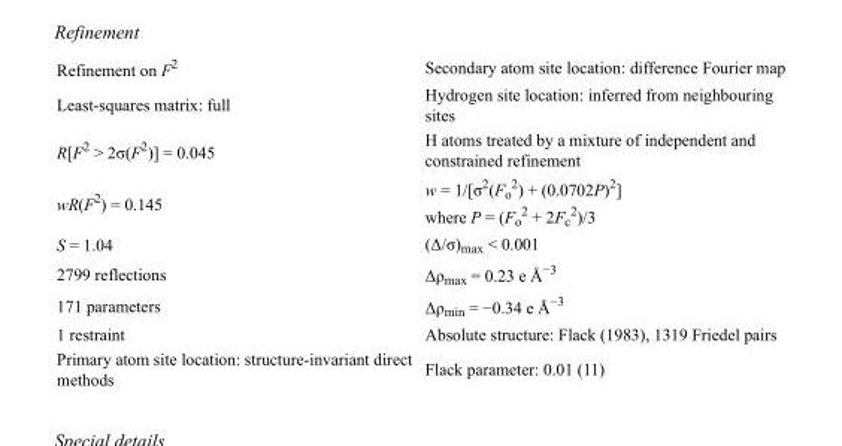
<table><tbody><tr><td>Refinement on F<sup>2</sup></td><td>Secondary atom site location: difference Fourier map</td></tr><tr><td>Least-squares matrix: full</td><td>Hydrogen site location: inferred from neighbouring sites</td></tr><tr><td>R[F<sup>2</sup> &gt; 2σ(F<sup>2</sup>)] = 0.045</td><td>H atoms treated by a mixture of independent and constrained refinement</td></tr><tr><td>wR(F<sup>2</sup>) = 0.145</td><td>w = 1/[σ<sup>2</sup>(F<sub>o</sub> <sup>2</sup>) + (0.0702P)<sup>2</sup>] where P = (F<sub>o</sub> <sup>2</sup> + 2F<sub>c</sub> <sup>2</sup>)/3</td></tr><tr><td>S = 1.04</td><td>(Δ/σ)<sub>max</sub> &lt; 0.001</td></tr><tr><td>2799 reflections</td><td>Δρ<sub>max</sub> = 0.23 e Å<sup>−3</sup></td></tr><tr><td>171 parameters</td><td>Δρmin = −0.34 e Å−3</td></tr><tr><td>1 restraint</td><td>Absolute structure: Flack (1983), 1319 Friedel pairs</td></tr><tr><td>Primary atom site location: structure-invariant direct methods</td><td>Flack parameter: 0.01 (11)</td></tr></tbody></table>